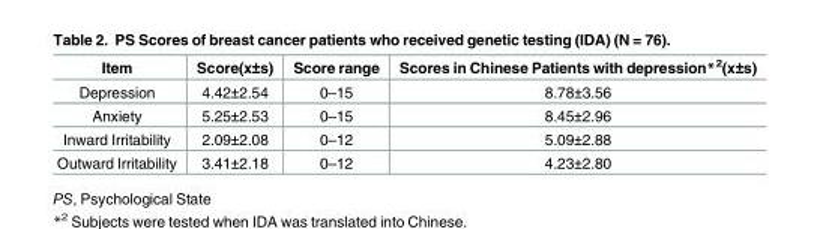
<table><thead><tr><td>Item</td><td>Score(x±s)</td><td>Score range</td><td>Scores in Chinese Patients with depression*<sup>2</sup>(x±s)</td></tr></thead><tbody><tr><td>Depression</td><td>4.42±2.54</td><td>0–15</td><td>8.78±3.56</td></tr><tr><td>Anxiety</td><td>5.25±2.53</td><td>0–15</td><td>8.45±2.96</td></tr><tr><td>Inward Irritability</td><td>2.09±2.08</td><td>0–12</td><td>5.09±2.88</td></tr><tr><td>Outward Irritability</td><td>3.41±2.18</td><td>0–12</td><td>4.23±2.80</td></tr></tbody></table>